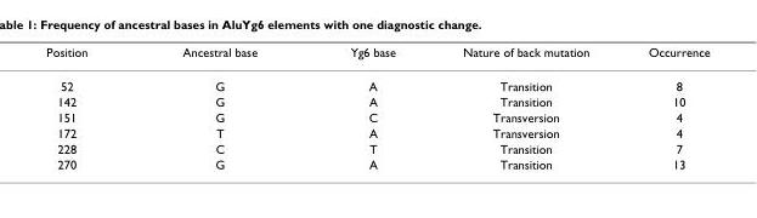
<table><thead><tr><td>Position</td><td>Ancestral base</td><td>Yg6 base</td><td>Nature of back mutation</td><td>Occurrence</td></tr></thead><tbody><tr><td>52</td><td>G</td><td>A</td><td>Transition</td><td>8</td></tr><tr><td>142</td><td>G</td><td>A</td><td>Transition</td><td>10</td></tr><tr><td>151</td><td>G</td><td>C</td><td>Transversion</td><td>4</td></tr><tr><td>172</td><td>T</td><td>A</td><td>Transversion</td><td>4</td></tr><tr><td>228</td><td>C</td><td>T</td><td>Transition</td><td>7</td></tr><tr><td>270</td><td>G</td><td>A</td><td>Transition</td><td>13</td></tr></tbody></table>